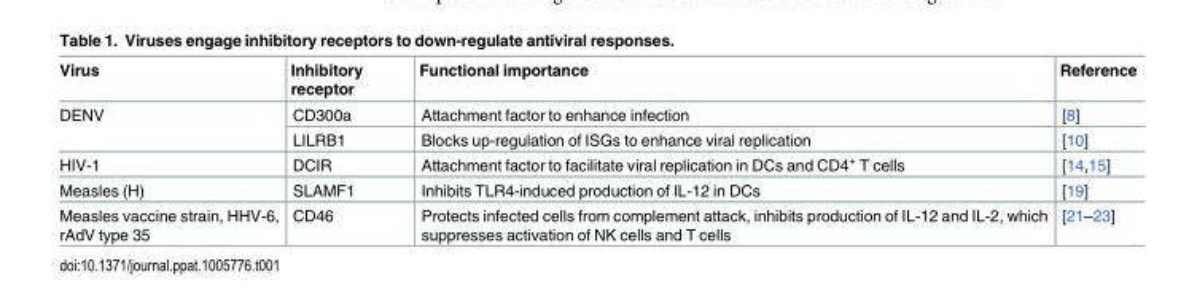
<table><thead><tr><td>Virus</td><td>Inhibitory receptor</td><td>Functional importance</td><td>Reference</td></tr></thead><tbody><tr><td rowspan="2">DENV</td><td>CD300a</td><td>Attachment factor to enhance infection</td><td>[8]</td></tr><tr><td>LILRB1</td><td>Blocks up-regulation of ISGs to enhance viral replication</td><td>[10]</td></tr><tr><td>HIV-1</td><td>DCIR</td><td>Attachment factor to facilitate viral replication in DCs and CD4<sup>+</sup> T cells</td><td>[14,15]</td></tr><tr><td>Measles (H)</td><td>SLAMF1</td><td>Inhibits TLR4-induced production of IL-12 in DCs</td><td>[19]</td></tr><tr><td>Measles vaccine strain, HHV-6, rAdV type 35</td><td>CD46</td><td>Protects infected cells from complement attack, inhibits production of IL-12 and IL-2, which suppresses activation of NK cells and T cells</td><td>[21–23]</td></tr></tbody></table>